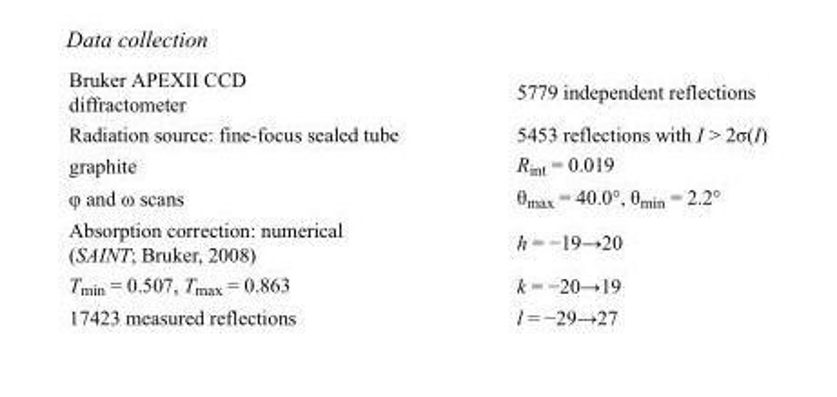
<table><tbody><tr><td>Bruker APEXII CCD diffractometer</td><td>5779 independent reflections</td></tr><tr><td>Radiation source: fine-focus sealed tube</td><td>5453 reflections with I &gt; 2σ(I)</td></tr><tr><td>graphite</td><td>R<sub>int</sub> = 0.019</td></tr><tr><td>φ and ω scans</td><td>θ<sub>max</sub> = 40.0°, θ<sub>min</sub> = 2.2°</td></tr><tr><td>Absorption correction: numerical (SAINT; Bruker, 2008)</td><td>h = −19→20</td></tr><tr><td>T<sub>min</sub> = 0.507, T<sub>max</sub> = 0.863</td><td>k = −20→19</td></tr><tr><td>17423 measured reflections</td><td>l = −29→27</td></tr></tbody></table>